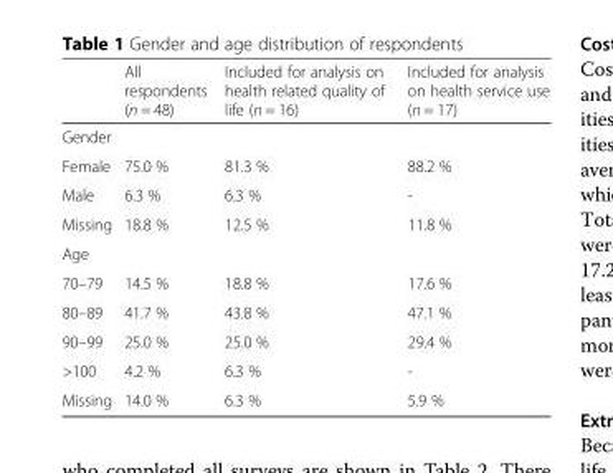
<table><thead><tr><td></td><td>All respondents (n = 48)</td><td>Included for analysis on health related quality of life (n = 16)</td><td>Included for analysis on health service use (n = 17)</td></tr></thead><tbody><tr><td colspan="4">Gender</td></tr><tr><td>Female</td><td>75.0 %</td><td>81.3 %</td><td>88.2 %</td></tr><tr><td>Male</td><td>6.3 %</td><td>6.3 %</td><td>-</td></tr><tr><td>Missing</td><td>18.8 %</td><td>12.5 %</td><td>11.8 %</td></tr><tr><td colspan="4">Age</td></tr><tr><td>70–79</td><td>14.5 %</td><td>18.8 %</td><td>17.6 %</td></tr><tr><td>80–89</td><td>41.7 %</td><td>43.8 %</td><td>47.1 %</td></tr><tr><td>90–99</td><td>25.0 %</td><td>25.0 %</td><td>29.4 %</td></tr><tr><td>&gt;100</td><td>4.2 %</td><td>6.3 %</td><td>-</td></tr><tr><td>Missing</td><td>14.0 %</td><td>6.3 %</td><td>5.9 %</td></tr></tbody></table>